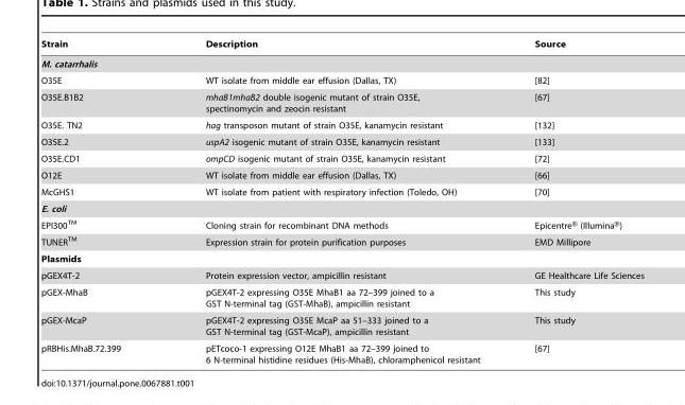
<table><thead><tr><td>Strain</td><td>Description</td><td>Source</td></tr></thead><tbody><tr><td colspan="3">M. catarrhalis</td></tr><tr><td>O35E</td><td>WT isolate from middle ear effusion (Dallas, TX)</td><td>[82]</td></tr><tr><td>O35E.B1B2</td><td>mhaB1mhaB2 double isogenic mutant of strain O35E, spectinomycin and zeocin resistant</td><td>[67]</td></tr><tr><td>O35E. TN2</td><td>hag transposon mutant of strain O35E, kanamycin resistant</td><td>[132]</td></tr><tr><td>O35E.2</td><td>uspA2 isogenic mutant of strain O35E, kanamycin resistant</td><td>[133]</td></tr><tr><td>O35E.CD1</td><td>ompCD isogenic mutant of strain O35E, kanamycin resistant</td><td>[72]</td></tr><tr><td>O12E</td><td>WT isolate from middle ear effusion (Dallas, TX)</td><td>[66]</td></tr><tr><td>McGHS1</td><td>WT isolate from patient with respiratory infection (Toledo, OH)</td><td>[70]</td></tr><tr><td colspan="3">E. coli</td></tr><tr><td>EPI300TM</td><td>Cloning strain for recombinant DNA methods</td><td>Epicentre® (Illumina®)</td></tr><tr><td>TUNERTM</td><td>Expression strain for protein purification purposes</td><td>EMD Millipore</td></tr><tr><td colspan="3">Plasmids</td></tr><tr><td>pGEX4T-2</td><td>Protein expression vector, ampicillin resistant</td><td>GE Healthcare Life Sciences</td></tr><tr><td>pGEX-MhaB</td><td>pGEX4T-2 expressing O35E MhaB1 aa 72–399 joined to a GST N-terminal tag (GST-MhaB), ampicillin resistant</td><td>This study</td></tr><tr><td>pGEX-McaP</td><td>pGEX4T-2 expressing O35E McaP aa 51–333 joined to a GST N-terminal tag (GST-McaP), ampicillin resistant</td><td>This study</td></tr><tr><td>pRBHis.MhaB.72.399</td><td>pETcoco-1 expressing O12E MhaB1 aa 72–399 joined to 6 N-terminal histidine residues (His-MhaB), chloramphenicol resistant</td><td>[67]</td></tr></tbody></table>